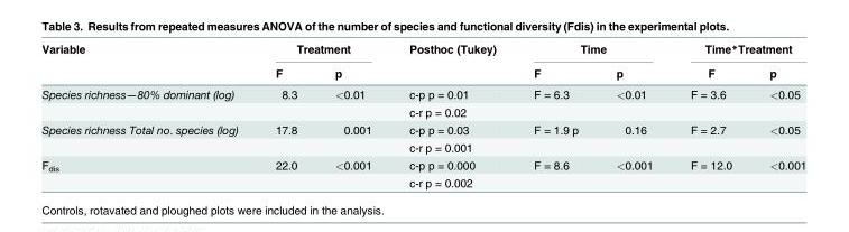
<table><thead><tr><td rowspan="2">Variable</td><td colspan="2">Treatment</td><td rowspan="2">Posthoc (Tukey)</td><td colspan="2">Time</td><td colspan="2">Time*Treatment</td></tr><tr><td>F</td><td>p</td><td>F</td><td>p</td><td>F</td><td>p</td></tr></thead><tbody><tr><td rowspan="2">Species richness—80% dominant (log)</td><td>8.3</td><td>&lt;0.01</td><td>c-p p = 0.01</td><td>F = 6.3</td><td>&lt;0.01</td><td>F = 3.6</td><td>&lt;0.05</td></tr><tr><td></td><td></td><td>c-r p = 0.02</td><td></td><td></td><td></td><td></td></tr><tr><td rowspan="2">Species richness Total no. species (log)</td><td>17.8</td><td>0.001</td><td>c-p p = 0.03</td><td>F = 1.9 p</td><td>0.16</td><td>F = 2.7</td><td>&lt;0.05</td></tr><tr><td></td><td></td><td>c-r p = 0.001</td><td></td><td></td><td></td><td></td></tr><tr><td rowspan="2">F<sub>dis</sub></td><td>22.0</td><td>&lt;0.001</td><td>c-p p = 0.000</td><td>F = 8.6</td><td>&lt;0.001</td><td>F = 12.0</td><td>&lt;0.001</td></tr><tr><td></td><td></td><td>c-r p = 0.002</td><td></td><td></td><td></td><td></td></tr></tbody></table>